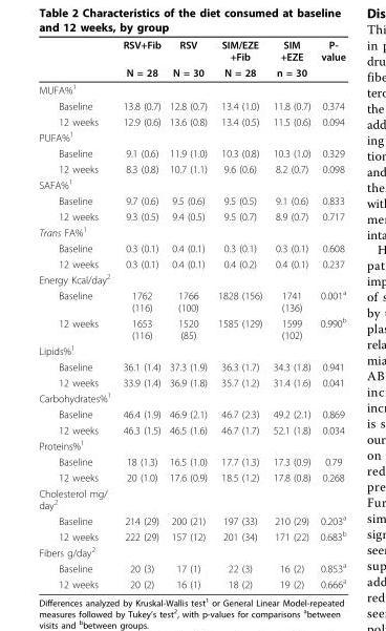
<table><thead><tr><td rowspan="2"></td><td rowspan="2">RSV+Fib N = 28</td><td rowspan="2">RSV N = 30</td><td rowspan="2">SIM/EZE +Fib N = 28</td><td rowspan="2">SIM +EZE n = 30</td><td rowspan="2">P- value</td></tr><tr></tr></thead><tbody><tr><td colspan="6">MUFA%<sup>1</sup></td></tr><tr><td>Baseline</td><td>13.8 (0.7)</td><td>12.8 (0.7)</td><td>13.4 (1.0)</td><td>11.8 (0.7)</td><td>0.374</td></tr><tr><td>12 weeks</td><td>12.9 (0.6)</td><td>13.6 (0.8)</td><td>13.4 (0.5)</td><td>11.5 (0.6)</td><td>0.094</td></tr><tr><td colspan="6">PUFA%<sup>1</sup></td></tr><tr><td>Baseline</td><td>9.1 (0.6)</td><td>11.9 (1.0)</td><td>10.3 (0.8)</td><td>10.3 (1.0)</td><td>0.329</td></tr><tr><td>12 weeks</td><td>8.3 (0.8)</td><td>10.7 (1.1)</td><td>9.6 (0.6)</td><td>8.2 (0.7)</td><td>0.098</td></tr><tr><td colspan="6">SAFA%<sup>1</sup></td></tr><tr><td>Baseline</td><td>9.7 (0.6)</td><td>9.5 (0.6)</td><td>9.5 (0.5)</td><td>9.1 (0.6)</td><td>0.833</td></tr><tr><td>12 weeks</td><td>9.3 (0.5)</td><td>9.4 (0.5)</td><td>9.5 (0.7)</td><td>8.9 (0.7)</td><td>0.717</td></tr><tr><td colspan="6">Trans FA%<sup>1</sup></td></tr><tr><td>Baseline</td><td>0.3 (0.1)</td><td>0.4 (0.1)</td><td>0.3 (0.1)</td><td>0.3 (0.1)</td><td>0.608</td></tr><tr><td>12 weeks</td><td>0.3 (0.1)</td><td>0.4 (0.1)</td><td>0.4 (0.2)</td><td>0.4 (0.1)</td><td>0.237</td></tr><tr><td colspan="6">Energy Kcal/day<sup>2</sup></td></tr><tr><td>Baseline</td><td>1762 (116)</td><td>1766 (100)</td><td>1828 (156)</td><td>1741 (136)</td><td>0.001<sup>a</sup></td></tr><tr><td>12 weeks</td><td>1653 (116)</td><td>1520 (85)</td><td>1585 (129)</td><td>1599 (102)</td><td>0.990<sup>b</sup></td></tr><tr><td colspan="6">Lipids%<sup>1</sup></td></tr><tr><td>Baseline</td><td>36.1 (1.4)</td><td>37.3 (1.9)</td><td>36.3 (1.7)</td><td>34.3 (1.8)</td><td>0.941</td></tr><tr><td>12 weeks</td><td>33.9 (1.4)</td><td>36.9 (1.8)</td><td>35.7 (1.2)</td><td>31.4 (1.6)</td><td>0.041</td></tr><tr><td colspan="6">Carbohydrates%<sup>1</sup></td></tr><tr><td>Baseline</td><td>46.4 (1.9)</td><td>46.9 (2.1)</td><td>46.7 (2.3)</td><td>49.2 (2.1)</td><td>0.869</td></tr><tr><td>12 weeks</td><td>46.3 (1.5)</td><td>46.5 (1.6)</td><td>46.7 (1.7)</td><td>52.1 (1.8)</td><td>0.034</td></tr><tr><td colspan="6">Proteins%<sup>1</sup></td></tr><tr><td>Baseline</td><td>18 (1.3)</td><td>16.5 (1.0)</td><td>17.7 (1.3)</td><td>17.3 (0.9)</td><td>0.79</td></tr><tr><td>12 weeks</td><td>20 (1.0)</td><td>17.6 (0.9)</td><td>18.5 (1.2)</td><td>17.8 (0.8)</td><td>0.268</td></tr><tr><td colspan="6">Cholesterol mg/ day<sup>2</sup></td></tr><tr><td>Baseline</td><td>214 (29)</td><td>200 (21)</td><td>197 (33)</td><td>210 (29)</td><td>0.203<sup>a</sup></td></tr><tr><td>12 weeks</td><td>222 (29)</td><td>157 (12)</td><td>201 (34)</td><td>171 (22)</td><td>0.683<sup>b</sup></td></tr><tr><td colspan="6">Fibers g/day<sup>2</sup></td></tr><tr><td>Baseline</td><td>20 (3)</td><td>17 (1)</td><td>22 (3)</td><td>16 (2)</td><td>0.853<sup>a</sup></td></tr><tr><td>12 weeks</td><td>20 (2)</td><td>16 (1)</td><td>18 (2)</td><td>19 (2)</td><td>0.666<sup>a</sup></td></tr></tbody></table>